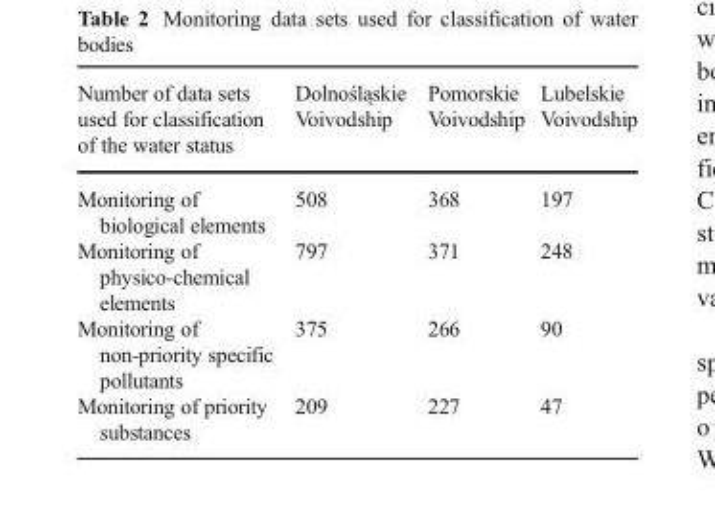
<table><thead><tr><td>Number of data sets used for classification of the water status</td><td>Dolnośląskie Voivodship</td><td>Pomorskie Voivodship</td><td>Lubelskie Voivodship</td></tr></thead><tbody><tr><td>Monitoring of biological elements</td><td>508</td><td>368</td><td>197</td></tr><tr><td>Monitoring of physico-chemical elements</td><td>797</td><td>371</td><td>248</td></tr><tr><td>Monitoring of non-priority specific pollutants</td><td>375</td><td>266</td><td>90</td></tr><tr><td>Monitoring of priority substances</td><td>209</td><td>227</td><td>47</td></tr></tbody></table>